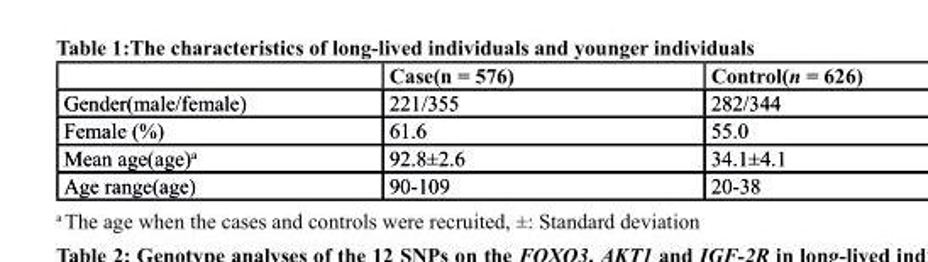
<table><thead><tr><td></td><td>case(n = 576)</td><td>control(n = 626)</td></tr></thead><tbody><tr><td>Gender(male/female)</td><td>221/355</td><td>282/344</td></tr><tr><td>Female (%)</td><td>61.6</td><td>55.0</td></tr><tr><td>Mean age(age)<sup>a</sup></td><td>92.8±2.6</td><td>34.1±4.1</td></tr><tr><td>Age range(age)</td><td>90-109</td><td>20-38</td></tr></tbody></table>